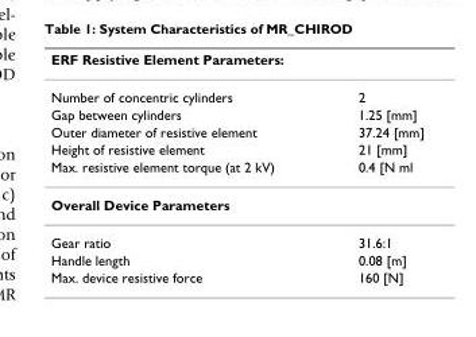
<table><thead><tr><td>ERF Resistive Element Parameters:</td><td></td></tr></thead><tbody><tr><td>Number of concentric cylinders</td><td>2</td></tr><tr><td>Gap between cylinders</td><td>1.25 [mm]</td></tr><tr><td>Outer diameter of resistive element</td><td>37.24 [mm]</td></tr><tr><td>Height of resistive element</td><td>21 [mm]</td></tr><tr><td>Max. resistive element torque (at 2 kV)</td><td>0.4 [N ml</td></tr><tr><td colspan="2">Overall Device Parameters</td></tr><tr><td>Gear ratio</td><td>31.6:1</td></tr><tr><td>Handle length</td><td>0.08 [m]</td></tr><tr><td>Max. device resistive force</td><td>160 [N]</td></tr></tbody></table>